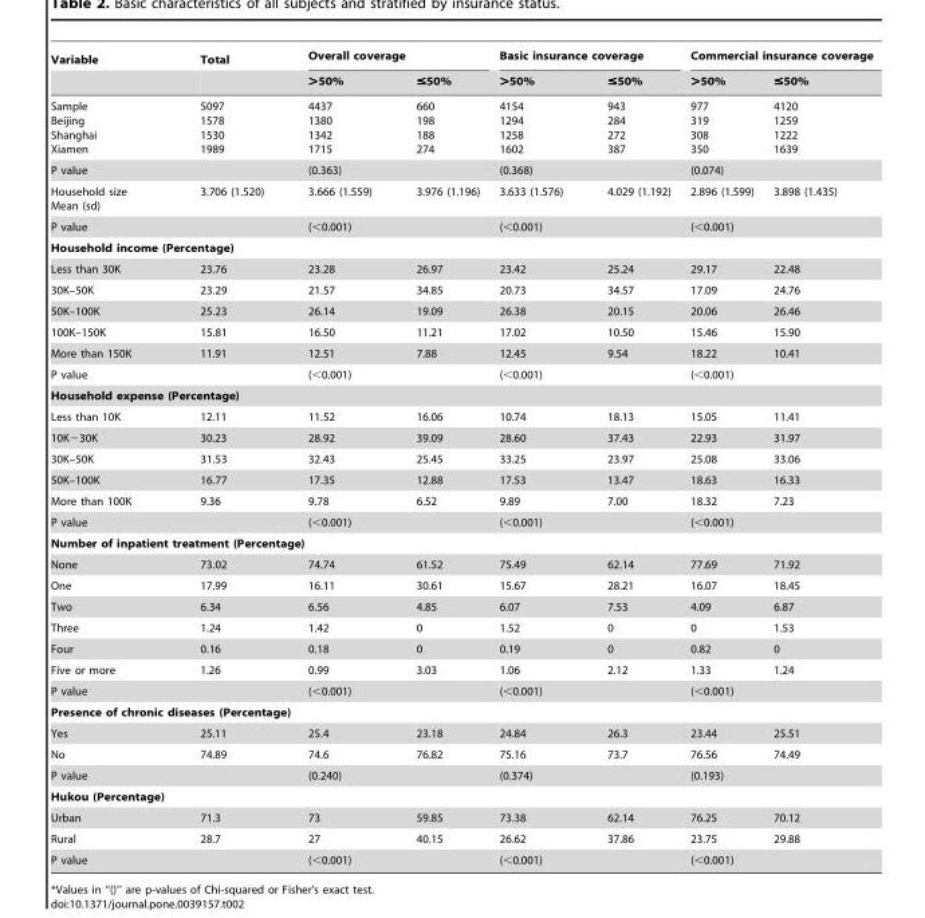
<table><thead><tr><td rowspan="2">Variable</td><td rowspan="2">Total</td><td colspan="2">Overall coverage</td><td colspan="2">Basic insurance coverage</td><td colspan="2">Commercial insurance coverage</td></tr><tr><td>&gt;50%</td><td>≤50%</td><td>&gt;50%</td><td>≤50%</td><td>&gt;50%</td><td>≤50%</td></tr></thead><tbody><tr><td>Sample Beijing Shanghai Xiamen</td><td>5097 1578 1530 1989</td><td>4437 1380 1342 1715</td><td>660 198 188 274</td><td>4154 1294 1258 1602</td><td>943 284 272 387</td><td>977 319 308 350</td><td>4120 1259 1222 1639</td></tr><tr><td colspan="2">P value</td><td colspan="2">(0.363)</td><td colspan="2">(0.368)</td><td colspan="2">(0.074)</td></tr><tr><td>Household size Mean (sd)</td><td>3.706 (1.520)</td><td>3.666 (1.559)</td><td>3.976 (1.196)</td><td>3.633 (1.576)</td><td>4.029 (1.192)</td><td>2.896 (1.599)</td><td>3.898 (1.435)</td></tr><tr><td colspan="2">P value</td><td colspan="2">(&lt;0.001)</td><td colspan="2">(&lt;0.001)</td><td colspan="2">(&lt;0.001)</td></tr><tr><td colspan="8">Household income (Percentage)</td></tr><tr><td>Less than 30K</td><td>23.76</td><td>23.28</td><td>26.97</td><td>23.42</td><td>25.24</td><td>29.17</td><td>22.48</td></tr><tr><td>30K–50K</td><td>23.29</td><td>21.57</td><td>34.85</td><td>20.73</td><td>34.57</td><td>17.09</td><td>24.76</td></tr><tr><td>50K–100K</td><td>25.23</td><td>26.14</td><td>19.09</td><td>26.38</td><td>20.15</td><td>20.06</td><td>26.46</td></tr><tr><td>100K–150K</td><td>15.81</td><td>16.50</td><td>11.21</td><td>17.02</td><td>10.50</td><td>15.46</td><td>15.90</td></tr><tr><td>More than 150K</td><td>11.91</td><td>12.51</td><td>7.88</td><td>12.45</td><td>9.54</td><td>18.22</td><td>10.41</td></tr><tr><td colspan="2">P value</td><td colspan="2">(&lt;0.001)</td><td colspan="2">(&lt;0.001)</td><td colspan="2">(&lt;0.001)</td></tr><tr><td colspan="8">Household expense (Percentage)</td></tr><tr><td>Less than 10K</td><td>12.11</td><td>11.52</td><td>16.06</td><td>10.74</td><td>18.13</td><td>15.05</td><td>11.41</td></tr><tr><td>10K−30K</td><td>30.23</td><td>28.92</td><td>39.09</td><td>28.60</td><td>37.43</td><td>22.93</td><td>31.97</td></tr><tr><td>30K–50K</td><td>31.53</td><td>32.43</td><td>25.45</td><td>33.25</td><td>23.97</td><td>25.08</td><td>33.06</td></tr><tr><td>50K–100K</td><td>16.77</td><td>17.35</td><td>12.88</td><td>17.53</td><td>13.47</td><td>18.63</td><td>16.33</td></tr><tr><td>More than 100K</td><td>9.36</td><td>9.78</td><td>6.52</td><td>9.89</td><td>7.00</td><td>18.32</td><td>7.23</td></tr><tr><td colspan="2">P value</td><td colspan="2">(&lt;0.001)</td><td colspan="2">(&lt;0.001)</td><td colspan="2">(&lt;0.001)</td></tr><tr><td colspan="8">Number of inpatient treatment (Percentage)</td></tr><tr><td>None</td><td>73.02</td><td>74.74</td><td>61.52</td><td>75.49</td><td>62.14</td><td>77.69</td><td>71.92</td></tr><tr><td>One</td><td>17.99</td><td>16.11</td><td>30.61</td><td>15.67</td><td>28.21</td><td>16.07</td><td>18.45</td></tr><tr><td>Two</td><td>6.34</td><td>6.56</td><td>4.85</td><td>6.07</td><td>7.53</td><td>4.09</td><td>6.87</td></tr><tr><td>Three</td><td>1.24</td><td>1.42</td><td>0</td><td>1.52</td><td>0</td><td>0</td><td>1.53</td></tr><tr><td>Four</td><td>0.16</td><td>0.18</td><td>0</td><td>0.19</td><td>0</td><td>0.82</td><td>0</td></tr><tr><td>Five or more</td><td>1.26</td><td>0.99</td><td>3.03</td><td>1.06</td><td>2.12</td><td>1.33</td><td>1.24</td></tr><tr><td colspan="2">P value</td><td colspan="2">(&lt;0.001)</td><td colspan="2">(&lt;0.001)</td><td colspan="2">(&lt;0.001)</td></tr><tr><td colspan="8">Presence of chronic diseases (Percentage)</td></tr><tr><td>Yes</td><td>25.11</td><td>25.4</td><td>23.18</td><td>24.84</td><td>26.3</td><td>23.44</td><td>25.51</td></tr><tr><td>No</td><td>74.89</td><td>74.6</td><td>76.82</td><td>75.16</td><td>73.7</td><td>76.56</td><td>74.49</td></tr><tr><td colspan="2">P value</td><td colspan="2">(0.240)</td><td colspan="2">(0.374)</td><td colspan="2">(0.193)</td></tr><tr><td colspan="8">Hukou (Percentage)</td></tr><tr><td>Urban</td><td>71.3</td><td>73</td><td>59.85</td><td>73.38</td><td>62.14</td><td>76.25</td><td>70.12</td></tr><tr><td>Rural</td><td>28.7</td><td>27</td><td>40.15</td><td>26.62</td><td>37.86</td><td>23.75</td><td>29.88</td></tr><tr><td colspan="2">P value</td><td colspan="2">(&lt;0.001)</td><td colspan="2">(&lt;0.001)</td><td colspan="2">(&lt;0.001)</td></tr></tbody></table>